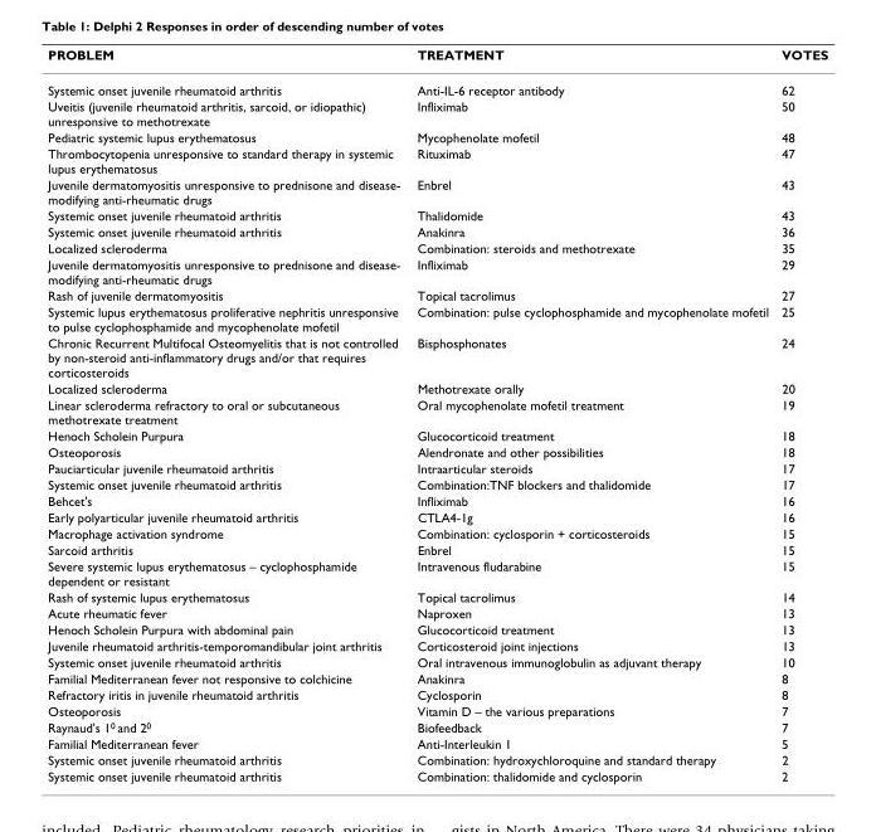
<table><thead><tr><td>PROBLEM</td><td>TREATMENT</td><td>VOTES</td></tr></thead><tbody><tr><td>Systemic onset juvenile rheumatoid arthritis</td><td>Anti-IL-6 receptor antibody</td><td>62</td></tr><tr><td>Uveitis (juvenile rheumatoid arthritis, sarcoid, or idiopathic) unresponsive to methotrexate</td><td>Infliximab</td><td>50</td></tr><tr><td>Pediatric systemic lupus erythematosus</td><td>Mycophenolate mofetil</td><td>48</td></tr><tr><td>Thrombocytopenia unresponsive to standard therapy in systemic lupus erythematosus</td><td>Rituximab</td><td>47</td></tr><tr><td>Juvenile dermatomyositis unresponsive to prednisone and disease- modifying anti-rheumatic drugs</td><td>Enbrel</td><td>43</td></tr><tr><td>Systemic onset juvenile rheumatoid arthritis</td><td>Thalidomide</td><td>43</td></tr><tr><td>Systemic onset juvenile rheumatoid arthritis</td><td>Anakinra</td><td>36</td></tr><tr><td>Localized scleroderma</td><td>Combination: steroids and methotrexate</td><td>35</td></tr><tr><td>Juvenile dermatomyositis unresponsive to prednisone and disease- modifying anti-rheumatic drugs</td><td>Infliximab</td><td>29</td></tr><tr><td>Rash of juvenile dermatomyositis</td><td>Topical tacrolimus</td><td>27</td></tr><tr><td>Systemic lupus erythematosus proliferative nephritis unresponsive to pulse cyclophosphamide and mycophenolate mofetil</td><td>Combination: pulse cyclophosphamide and mycophenolate mofetil</td><td>25</td></tr><tr><td>Chronic Recurrent Multifocal Osteomyelitis that is not controlled by non-steroid anti-inflammatory drugs and/or that requires corticosteroids</td><td>Bisphosphonates</td><td>24</td></tr><tr><td>Localized scleroderma</td><td>Methotrexate orally</td><td>20</td></tr><tr><td>Linear scleroderma refractory to oral or subcutaneous methotrexate treatment</td><td>Oral mycophenolate mofetil treatment</td><td>19</td></tr><tr><td>Henoch Scholein Purpura</td><td>Glucocorticoid treatment</td><td>18</td></tr><tr><td>Osteoporosis</td><td>Alendronate and other possibilities</td><td>18</td></tr><tr><td>Pauciarticular juvenile rheumatoid arthritis</td><td>Intraarticular steroids</td><td>17</td></tr><tr><td>Systemic onset juvenile rheumatoid arthritis</td><td>Combination:TNF blockers and thalidomide</td><td>17</td></tr><tr><td>Behcet&#x27;s</td><td>Infliximab</td><td>16</td></tr><tr><td>Early polyarticular juvenile rheumatoid arthritis</td><td>CTLA4-1g</td><td>16</td></tr><tr><td>Macrophage activation syndrome</td><td>Combination: cyclosporin + corticosteroids</td><td>15</td></tr><tr><td>Sarcoid arthritis</td><td>Enbrel</td><td>15</td></tr><tr><td>Severe systemic lupus erythematosus – cyclophosphamide dependent or resistant</td><td>Intravenous fludarabine</td><td>15</td></tr><tr><td>Rash of systemic lupus erythematosus</td><td>Topical tacrolimus</td><td>14</td></tr><tr><td>Acute rheumatic fever</td><td>Naproxen</td><td>13</td></tr><tr><td>Henoch Scholein Purpura with abdominal pain</td><td>Glucocorticoid treatment</td><td>13</td></tr><tr><td>Juvenile rheumatoid arthritis-temporomandibular joint arthritis</td><td>Corticosteroid joint injections</td><td>13</td></tr><tr><td>Systemic onset juvenile rheumatoid arthritis</td><td>Oral intravenous immunoglobulin as adjuvant therapy</td><td>10</td></tr><tr><td>Familial Mediterranean fever not responsive to colchicine</td><td>Anakinra</td><td>8</td></tr><tr><td>Refractory iritis in juvenile rheumatoid arthritis</td><td>Cyclosporin</td><td>8</td></tr><tr><td>Osteoporosis</td><td>Vitamin D – the various preparations</td><td>7</td></tr><tr><td>Raynaud&#x27;s 1<sup>0</sup> and 2<sup>0</sup></td><td>Biofeedback</td><td>7</td></tr><tr><td>Familial Mediterranean fever</td><td>Anti-Interleukin 1</td><td>5</td></tr><tr><td>Systemic onset juvenile rheumatoid arthritis</td><td>Combination: hydroxychloroquine and standard therapy</td><td>2</td></tr><tr><td>Systemic onset juvenile rheumatoid arthritis</td><td>Combination: thalidomide and cyclosporin</td><td>2</td></tr></tbody></table>